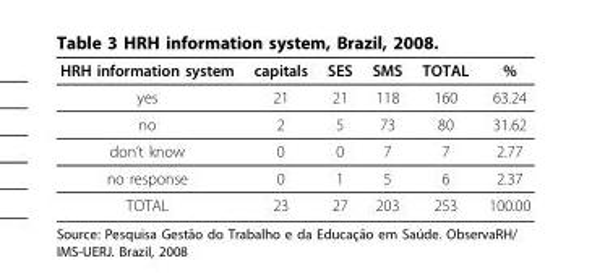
<table><thead><tr><td>HRH information system</td><td>capitals</td><td>SES</td><td>SMS</td><td>TOTAL</td><td>%</td></tr></thead><tbody><tr><td>yes</td><td>21</td><td>21</td><td>118</td><td>160</td><td>63.24</td></tr><tr><td>no</td><td>2</td><td>5</td><td>73</td><td>80</td><td>31.62</td></tr><tr><td>don’t know</td><td>0</td><td>0</td><td>7</td><td>7</td><td>2.77</td></tr><tr><td>no response</td><td>0</td><td>1</td><td>5</td><td>6</td><td>2.37</td></tr><tr><td>TOTAL</td><td>23</td><td>27</td><td>203</td><td>253</td><td>100.00</td></tr></tbody></table>